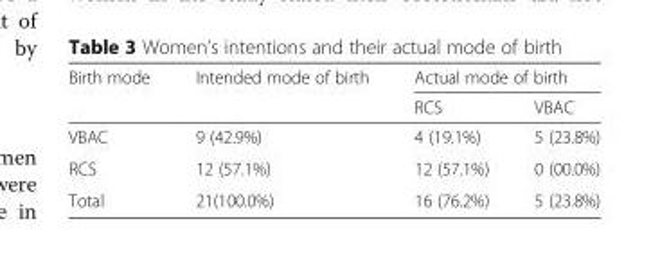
<table><thead><tr><td rowspan="2">Birth mode</td><td rowspan="2">Intended mode of birth</td><td colspan="2">Actual mode of birth</td></tr><tr><td>RCS</td><td>VBAC</td></tr></thead><tbody><tr><td>VBAC</td><td>9 (42.9%)</td><td>4 (19.1%)</td><td>5 (23.8%)</td></tr><tr><td>RCS</td><td>12 (57.1%)</td><td>12 (57.1%)</td><td>0 (00.0%)</td></tr><tr><td>Total</td><td>21(100.0%)</td><td>16 (76.2%)</td><td>5 (23.8%)</td></tr></tbody></table>